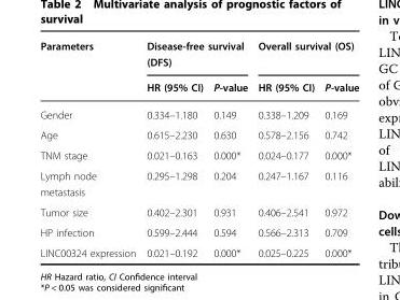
<table><thead><tr><td rowspan="2">Parameters</td><td colspan="2">Disease-free survival (DFS)</td><td colspan="2">Overall survival (OS)</td></tr><tr><td>HR (95% CI)</td><td>P-value</td><td>HR (95% CI)</td><td>P-value</td></tr></thead><tbody><tr><td>Gender</td><td>0.334–1.180</td><td>0.149</td><td>0.338–1.209</td><td>0.169</td></tr><tr><td>Age</td><td>0.615–2.230</td><td>0.630</td><td>0.578–2.156</td><td>0.742</td></tr><tr><td>TNM stage</td><td>0.021–0.163</td><td>0.000*</td><td>0.024–0.177</td><td>0.000*</td></tr><tr><td>Lymph node metastasis</td><td>0.295–1.298</td><td>0.204</td><td>0.247–1.167</td><td>0.116</td></tr><tr><td>Tumor size</td><td>0.402–2.301</td><td>0.931</td><td>0.406–2.541</td><td>0.972</td></tr><tr><td>HP infection</td><td>0.599–2.444</td><td>0.594</td><td>0.566–2.313</td><td>0.709</td></tr><tr><td>LINC00324 expression</td><td>0.021–0.192</td><td>0.000*</td><td>0.025–0.225</td><td>0.000*</td></tr></tbody></table>